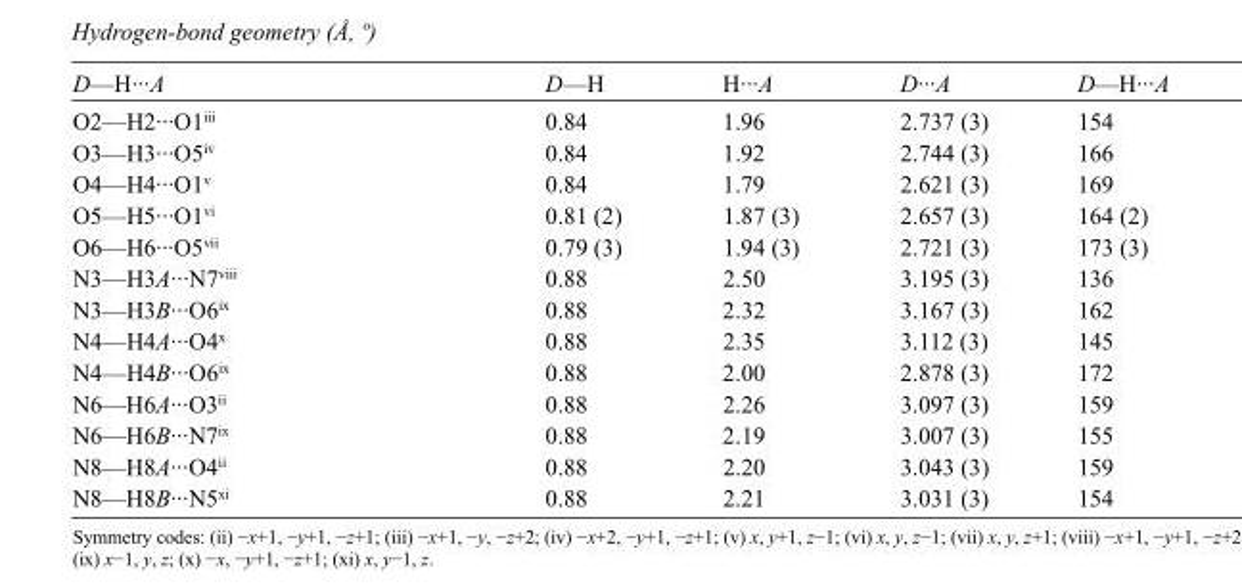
<table><tbody><tr><td>D—H···A</td><td>D—H</td><td>H···A</td><td>D···A</td><td>D—H···A</td></tr><tr><td>O2—H2···O1<sup>iii</sup></td><td>0.84</td><td>1.96</td><td>2.737 (3)</td><td>154</td></tr><tr><td>O3—H3···O5<sup>iv</sup></td><td>0.84</td><td>1.92</td><td>2.744 (3)</td><td>166</td></tr><tr><td>O4—H4···O1<sup>v</sup></td><td>0.84</td><td>1.79</td><td>2.621 (3)</td><td>169</td></tr><tr><td>O5—H5···O1<sup>vi</sup></td><td>0.81 (2)</td><td>1.87 (3)</td><td>2.657 (3)</td><td>164 (2)</td></tr><tr><td>O6—H6···O5<sup>vii</sup></td><td>0.79 (3)</td><td>1.94 (3)</td><td>2.721 (3)</td><td>173 (3)</td></tr><tr><td>N3—H3A···N7<sup>viii</sup></td><td>0.88</td><td>2.50</td><td>3.195 (3)</td><td>136</td></tr><tr><td>N3—H3B···O6<sup>ix</sup></td><td>0.88</td><td>2.32</td><td>3.167 (3)</td><td>162</td></tr><tr><td>N4—H4A···O4<sup>x</sup></td><td>0.88</td><td>2.35</td><td>3.112 (3)</td><td>145</td></tr><tr><td>N4—H4B···O6<sup>ix</sup></td><td>0.88</td><td>2.00</td><td>2.878 (3)</td><td>172</td></tr><tr><td>N6—H6A···O3<sup>ii</sup></td><td>0.88</td><td>2.26</td><td>3.097 (3)</td><td>159</td></tr><tr><td>N6—H6B···N7<sup>ix</sup></td><td>0.88</td><td>2.19</td><td>3.007 (3)</td><td>155</td></tr><tr><td>N8—H8A···O4<sup>ii</sup></td><td>0.88</td><td>2.20</td><td>3.043 (3)</td><td>159</td></tr><tr><td>N8—H8B···N5<sup>xi</sup></td><td>0.88</td><td>2.21</td><td>3.031 (3)</td><td>154</td></tr></tbody></table>